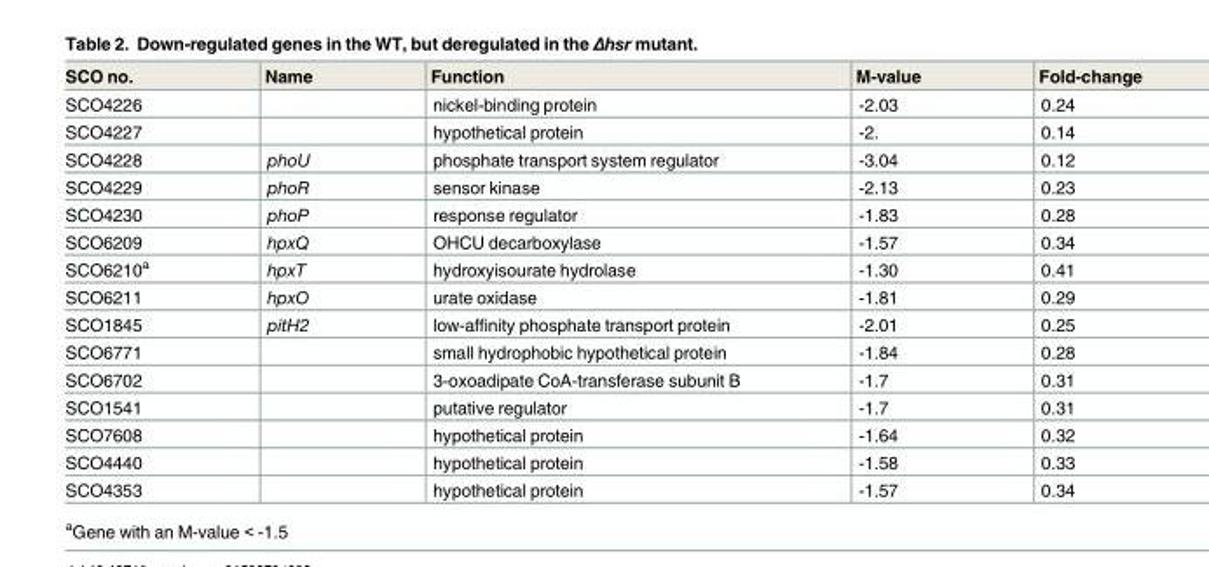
<table><thead><tr><td>SCO no.</td><td>Name</td><td>Function</td><td>M-value</td><td>Fold-change</td></tr></thead><tbody><tr><td>SCO4226</td><td></td><td>nickel-binding protein</td><td>-2.03</td><td>0.24</td></tr><tr><td>SCO4227</td><td></td><td>hypothetical protein</td><td>-2.</td><td>0.14</td></tr><tr><td>SCO4228</td><td>phoU</td><td>phosphate transport system regulator</td><td>-3.04</td><td>0.12</td></tr><tr><td>SCO4229</td><td>phoR</td><td>sensor kinase</td><td>-2.13</td><td>0.23</td></tr><tr><td>SCO4230</td><td>phoP</td><td>response regulator</td><td>-1.83</td><td>0.28</td></tr><tr><td>SCO6209</td><td>hpxQ</td><td>OHCU decarboxylase</td><td>-1.57</td><td>0.34</td></tr><tr><td>SCO6210<sup>a</sup></td><td>hpxT</td><td>hydroxyisourate hydrolase</td><td>-1.30</td><td>0.41</td></tr><tr><td>SCO6211</td><td>hpxO</td><td>urate oxidase</td><td>-1.81</td><td>0.29</td></tr><tr><td>SCO1845</td><td>pitH2</td><td>low-affinity phosphate transport protein</td><td>-2.01</td><td>0.25</td></tr><tr><td>SCO6771</td><td></td><td>small hydrophobic hypothetical protein</td><td>-1.84</td><td>0.28</td></tr><tr><td>SCO6702</td><td></td><td>3-oxoadipate CoA-transferase subunit B</td><td>-1.7</td><td>0.31</td></tr><tr><td>SCO1541</td><td></td><td>putative regulator</td><td>-1.7</td><td>0.31</td></tr><tr><td>SCO7608</td><td></td><td>hypothetical protein</td><td>-1.64</td><td>0.32</td></tr><tr><td>SCO4440</td><td></td><td>hypothetical protein</td><td>-1.58</td><td>0.33</td></tr><tr><td>SCO4353</td><td></td><td>hypothetical protein</td><td>-1.57</td><td>0.34</td></tr></tbody></table>